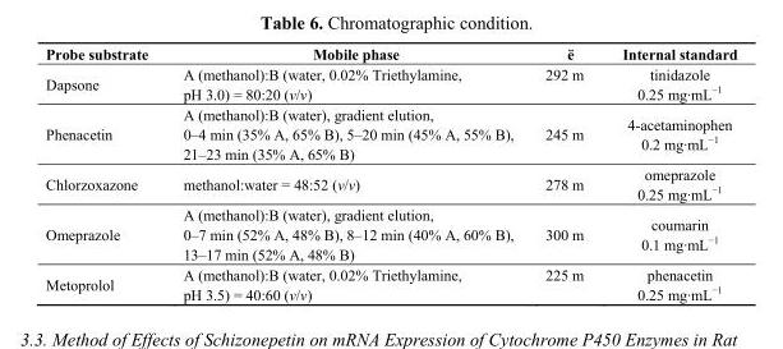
<table><thead><tr><td>Probe substrate</td><td>Mobile phase</td><td>ë</td><td>Internal standard</td></tr></thead><tbody><tr><td>Dapsone</td><td>A (methanol):B (water, 0.02% Triethylamine, pH 3.0) = 80:20 (v/v)</td><td>292 m</td><td>tinidazole 0.25 mg·mL<sup>−1</sup></td></tr><tr><td>Phenacetin</td><td>A (methanol):B (water), gradient elution, 0–4 min (35% A, 65% B), 5–20 min (45% A, 55% B), 21–23 min (35% A, 65% B)</td><td>245 m</td><td>4-acetaminophen 0.2 mg·mL<sup>−1</sup></td></tr><tr><td>Chlorzoxazone</td><td>methanol:water = 48:52 (v/v)</td><td>278 m</td><td>omeprazole 0.25 mg·mL<sup>−1</sup></td></tr><tr><td>Omeprazole</td><td>A (methanol):B (water), gradient elution, 0–7 min (52% A, 48% B), 8–12 min (40% A, 60% B), 13–17 min (52% A, 48% B)</td><td>300 m</td><td>coumarin 0.1 mg·mL<sup>−1</sup></td></tr><tr><td>Metoprolol</td><td>A (methanol):B (water, 0.02% Triethylamine, pH 3.5) = 40:60 (v/v)</td><td>225 m</td><td>phenacetin 0.25 mg·mL<sup>−1</sup></td></tr></tbody></table>